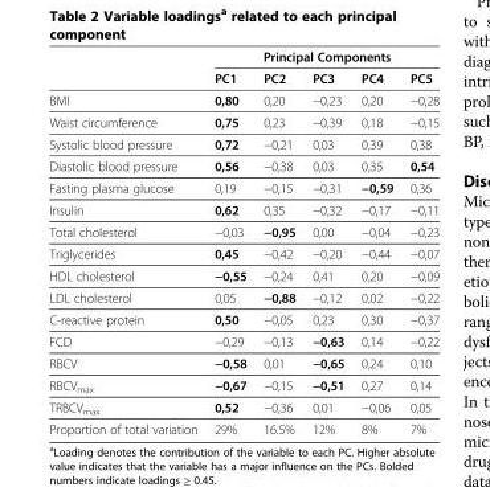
<table><thead><tr><td rowspan="2"></td><td colspan="5">Principal Components</td></tr><tr><td>PC1</td><td>PC2</td><td>PC3</td><td>PC4</td><td>PC5</td></tr></thead><tbody><tr><td>BMI</td><td>0,80</td><td>0,20</td><td>−0,23</td><td>0,20</td><td>−0,28</td></tr><tr><td>Waist circumference</td><td>0,75</td><td>0,23</td><td>−0,39</td><td>0,18</td><td>−0,15</td></tr><tr><td>Systolic blood pressure</td><td>0,72</td><td>−0,21</td><td>0,03</td><td>0,39</td><td>0,38</td></tr><tr><td>Diastolic blood pressure</td><td>0,56</td><td>−0,38</td><td>0,03</td><td>0,35</td><td>0,54</td></tr><tr><td>Fasting plasma glucose</td><td>0,19</td><td>−0,15</td><td>−0,31</td><td>−0,59</td><td>0,36</td></tr><tr><td>Insulin</td><td>0,62</td><td>0,35</td><td>−0,32</td><td>−0,17</td><td>−0,11</td></tr><tr><td>Total cholesterol</td><td>−0,03</td><td>−0,95</td><td>0,00</td><td>−0,04</td><td>−0,23</td></tr><tr><td>Triglycerides</td><td>0,45</td><td>−0,42</td><td>−0,20</td><td>−0,44</td><td>−0,07</td></tr><tr><td>HDL cholesterol</td><td>−0,55</td><td>−0,24</td><td>0,41</td><td>0,20</td><td>−0,09</td></tr><tr><td>LDL cholesterol</td><td>0,05</td><td>−0,88</td><td>−0,12</td><td>0,02</td><td>−0,22</td></tr><tr><td>C-reactive protein</td><td>0,50</td><td>−0,05</td><td>0,23</td><td>0,30</td><td>−0,37</td></tr><tr><td>FCD</td><td>−0,29</td><td>−0,13</td><td>−0,63</td><td>0,14</td><td>−0,22</td></tr><tr><td>RBCV</td><td>−0,58</td><td>0,01</td><td>−0,65</td><td>0,24</td><td>0,10</td></tr><tr><td>RBCV<sub>max</sub></td><td>−0,67</td><td>−0,15</td><td>−0,51</td><td>0,27</td><td>0,14</td></tr><tr><td>TRBCV<sub>max</sub></td><td>0,52</td><td>−0,36</td><td>0,01</td><td>−0,06</td><td>0,05</td></tr><tr><td>Proportion of total variation</td><td>29%</td><td>16.5%</td><td>12%</td><td>8%</td><td>7%</td></tr></tbody></table>